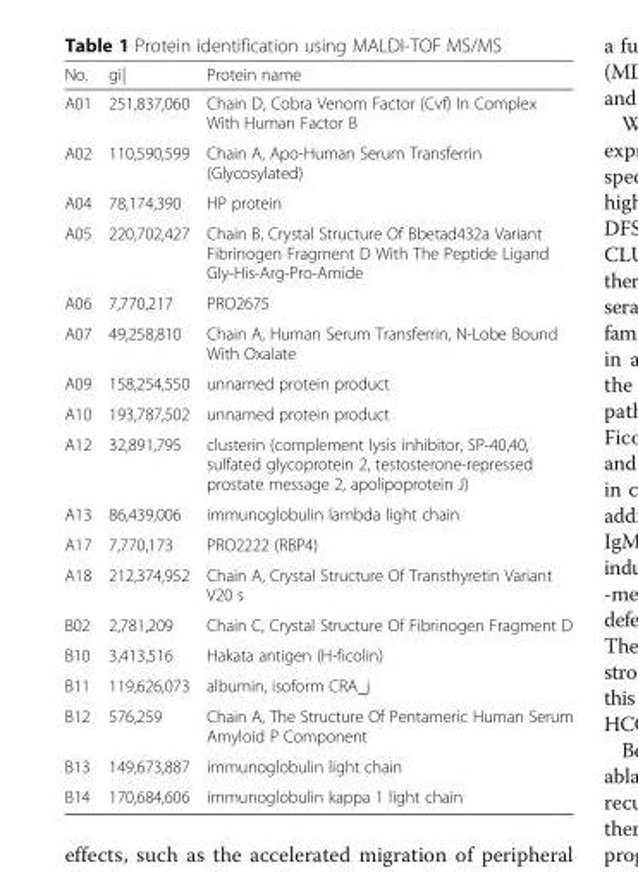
<table><thead><tr><td>No.</td><td>gi|</td><td>Protein name</td></tr></thead><tbody><tr><td>A01</td><td>251,837,060</td><td>Chain D, Cobra Venom Factor (Cvf) In Complex With Human Factor B</td></tr><tr><td>A02</td><td>110,590,599</td><td>Chain A, Apo-Human Serum Transferrin (Glycosylated)</td></tr><tr><td>A04</td><td>78,174,390</td><td>HP protein</td></tr><tr><td>A05</td><td>220,702,427</td><td>Chain B, Crystal Structure Of Bbetad432a Variant Fibrinogen Fragment D With The Peptide Ligand Gly-His-Arg-Pro-Amide</td></tr><tr><td>A06</td><td>7,770,217</td><td>PRO2675</td></tr><tr><td>A07</td><td>49,258,810</td><td>Chain A, Human Serum Transferrin, N-Lobe Bound With Oxalate</td></tr><tr><td>A09</td><td>158,254,550</td><td>unnamed protein product</td></tr><tr><td>A10</td><td>193,787,502</td><td>unnamed protein product</td></tr><tr><td>A12</td><td>32,891,795</td><td>clusterin (complement lysis inhibitor, SP-40,40, sulfated glycoprotein 2, testosterone-repressed prostate message 2, apolipoprotein J)</td></tr><tr><td>A13</td><td>86,439,006</td><td>immunoglobulin lambda light chain</td></tr><tr><td>A17</td><td>7,770,173</td><td>PRO2222 (RBP4)</td></tr><tr><td>A18</td><td>212,374,952</td><td>Chain A, Crystal Structure Of Transthyretin Variant V20 s</td></tr><tr><td>B02</td><td>2,781,209</td><td>Chain C, Crystal Structure Of Fibrinogen Fragment D</td></tr><tr><td>B10</td><td>3,413,516</td><td>Hakata antigen (H-ficolin)</td></tr><tr><td>B11</td><td>119,626,073</td><td>albumin, isoform CRA_j</td></tr><tr><td>B12</td><td>576,259</td><td>Chain A, The Structure Of Pentameric Human Serum Amyloid P Component</td></tr><tr><td>B13</td><td>149,673,887</td><td>immunoglobulin light chain</td></tr><tr><td>B14</td><td>170,684,606</td><td>immunoglobulin kappa 1 light chain</td></tr></tbody></table>